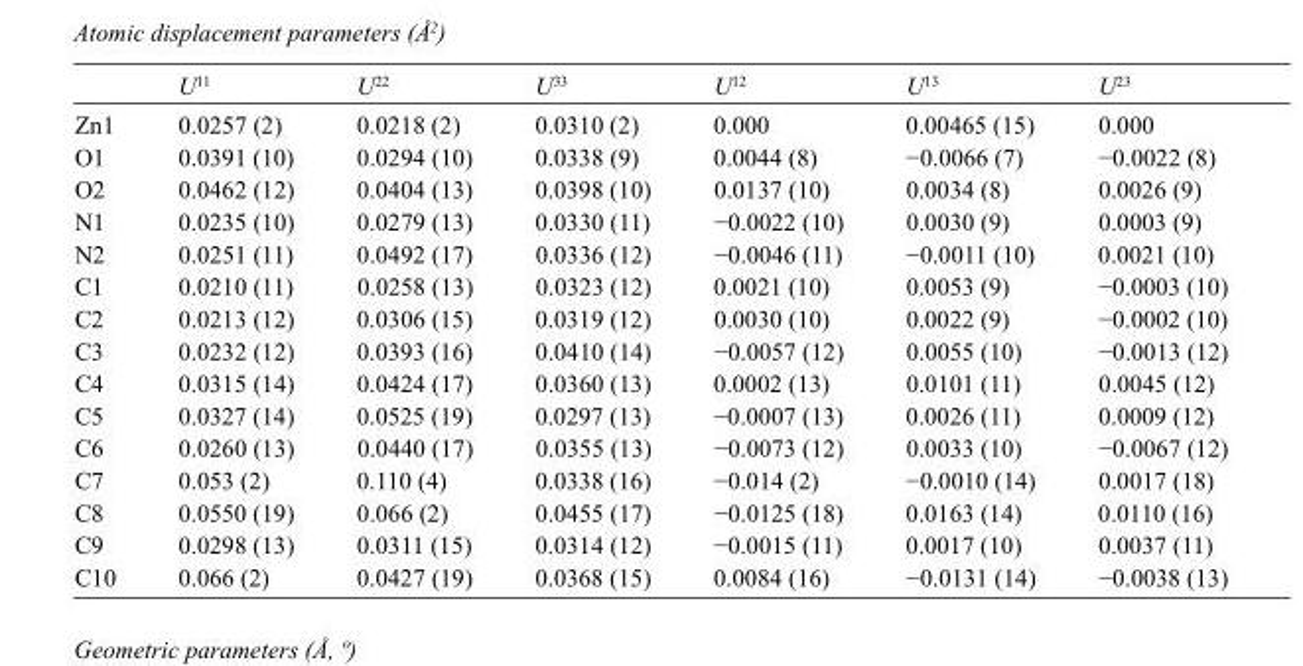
<table><thead><tr><td></td><td>U<sup>11</sup></td><td>U<sup>22</sup></td><td>U<sup>33</sup></td><td>U<sup>12</sup></td><td>U<sup>13</sup></td><td>U<sup>23</sup></td></tr></thead><tbody><tr><td>Zn1</td><td>0.0257 (2)</td><td>0.0218 (2)</td><td>0.0310 (2)</td><td>0.000</td><td>0.00465 (15)</td><td>0.000</td></tr><tr><td>O1</td><td>0.0391 (10)</td><td>0.0294 (10)</td><td>0.0338 (9)</td><td>0.0044 (8)</td><td>−0.0066 (7)</td><td>−0.0022 (8)</td></tr><tr><td>O2</td><td>0.0462 (12)</td><td>0.0404 (13)</td><td>0.0398 (10)</td><td>0.0137 (10)</td><td>0.0034 (8)</td><td>0.0026 (9)</td></tr><tr><td>N1</td><td>0.0235 (10)</td><td>0.0279 (13)</td><td>0.0330 (11)</td><td>−0.0022 (10)</td><td>0.0030 (9)</td><td>0.0003 (9)</td></tr><tr><td>N2</td><td>0.0251 (11)</td><td>0.0492 (17)</td><td>0.0336 (12)</td><td>−0.0046 (11)</td><td>−0.0011 (10)</td><td>0.0021 (10)</td></tr><tr><td>C1</td><td>0.0210 (11)</td><td>0.0258 (13)</td><td>0.0323 (12)</td><td>0.0021 (10)</td><td>0.0053 (9)</td><td>−0.0003 (10)</td></tr><tr><td>C2</td><td>0.0213 (12)</td><td>0.0306 (15)</td><td>0.0319 (12)</td><td>0.0030 (10)</td><td>0.0022 (9)</td><td>−0.0002 (10)</td></tr><tr><td>C3</td><td>0.0232 (12)</td><td>0.0393 (16)</td><td>0.0410 (14)</td><td>−0.0057 (12)</td><td>0.0055 (10)</td><td>−0.0013 (12)</td></tr><tr><td>C4</td><td>0.0315 (14)</td><td>0.0424 (17)</td><td>0.0360 (13)</td><td>0.0002 (13)</td><td>0.0101 (11)</td><td>0.0045 (12)</td></tr><tr><td>C5</td><td>0.0327 (14)</td><td>0.0525 (19)</td><td>0.0297 (13)</td><td>−0.0007 (13)</td><td>0.0026 (11)</td><td>0.0009 (12)</td></tr><tr><td>C6</td><td>0.0260 (13)</td><td>0.0440 (17)</td><td>0.0355 (13)</td><td>−0.0073 (12)</td><td>0.0033 (10)</td><td>−0.0067 (12)</td></tr><tr><td>C7</td><td>0.053 (2)</td><td>0.110 (4)</td><td>0.0338 (16)</td><td>−0.014 (2)</td><td>−0.0010 (14)</td><td>0.0017 (18)</td></tr><tr><td>C8</td><td>0.0550 (19)</td><td>0.066 (2)</td><td>0.0455 (17)</td><td>−0.0125 (18)</td><td>0.0163 (14)</td><td>0.0110 (16)</td></tr><tr><td>C9</td><td>0.0298 (13)</td><td>0.0311 (15)</td><td>0.0314 (12)</td><td>−0.0015 (11)</td><td>0.0017 (10)</td><td>0.0037 (11)</td></tr><tr><td>C10</td><td>0.066 (2)</td><td>0.0427 (19)</td><td>0.0368 (15)</td><td>0.0084 (16)</td><td>−0.0131 (14)</td><td>−0.0038 (13)</td></tr></tbody></table>